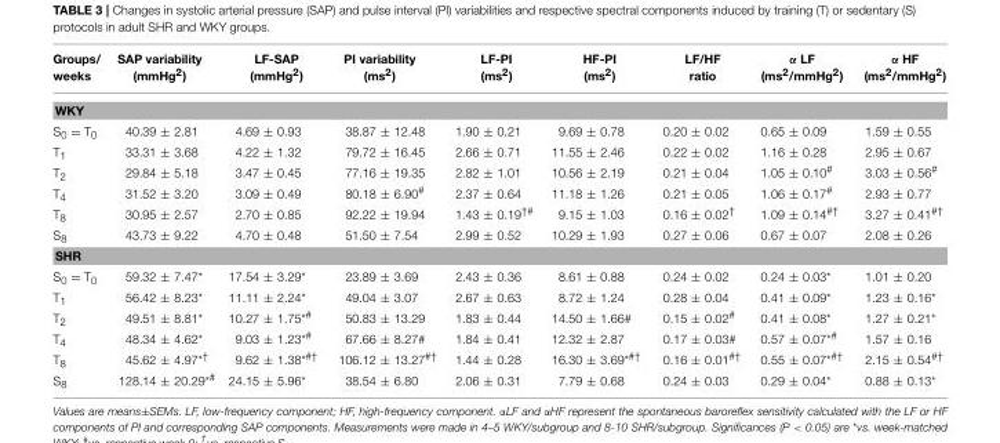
<table><thead><tr><td>Groups/ weeks</td><td>SAP variability (mmHg<sup>2</sup>)</td><td>LF-SAP (mmHg<sup>2</sup>)</td><td>PI variability (ms<sup>2</sup>)</td><td>LF-PI (ms<sup>2</sup>)</td><td>HF-PI (ms<sup>2</sup>)</td><td>LF/HF ratio</td><td>α LF (ms<sup>2</sup>/mmHg<sup>2</sup>)</td><td>α HF (ms<sup>2</sup>/mmHg<sup>2</sup>)</td></tr></thead><tbody><tr><td colspan="9">WKY</td></tr><tr><td>S<sub>0</sub> = T<sub>0</sub></td><td>40.39 ± 2.81</td><td>4.69 ± 0.93</td><td>38.87 ± 12.48</td><td>1.90 ± 0.21</td><td>9.69 ± 0.78</td><td>0.20 ± 0.02</td><td>0.65 ± 0.09</td><td>1.59 ± 0.55</td></tr><tr><td>T<sub>1</sub></td><td>33.31 ± 3.68</td><td>4.22 ± 1.32</td><td>79.72 ± 16.45</td><td>2.66 ± 0.71</td><td>11.55 ± 2.46</td><td>0.22 ± 0.02</td><td>1.16 ± 0.28</td><td>2.95 ± 0.67</td></tr><tr><td>T<sub>2</sub></td><td>29.84 ± 5.18</td><td>3.47 ± 0.45</td><td>77.16 ± 19.35</td><td>2.82 ± 1.01</td><td>10.56 ± 2.19</td><td>0.21 ± 0.04</td><td>1.05 ± 0.10<sup>#</sup></td><td>3.03 ± 0.56<sup>#</sup></td></tr><tr><td>T<sub>4</sub></td><td>31.52 ± 3.20</td><td>3.09 ± 0.49</td><td>80.18 ± 6.90<sup>#</sup></td><td>2.37 ± 0.64</td><td>11.18 ± 1.26</td><td>0.21 ± 0.05</td><td>1.06 ± 0.17<sup>#</sup></td><td>2.93 ± 0.77</td></tr><tr><td>T<sub>8</sub></td><td>30.95 ± 2.57</td><td>2.70 ± 0.85</td><td>92.22 ± 19.94</td><td>1.43 ± 0.19<sup>†#</sup></td><td>9.15 ± 1.03</td><td>0.16 ± 0.02<sup>†</sup></td><td>1.09 ± 0.14<sup>#†</sup></td><td>3.27 ± 0.41<sup>#†</sup></td></tr><tr><td>S<sub>8</sub></td><td>43.73 ± 9.22</td><td>4.70 ± 0.48</td><td>51.50 ± 7.54</td><td>2.99 ± 0.52</td><td>10.29 ± 1.93</td><td>0.27 ± 0.06</td><td>0.67 ± 0.07</td><td>2.08 ± 0.26</td></tr><tr><td colspan="9">SHR</td></tr><tr><td>S<sub>0</sub> = T<sub>0</sub></td><td>59.32 ± 7.47*</td><td>17.54 ± 3.29*</td><td>23.89 ± 3.69</td><td>2.43 ± 0.36</td><td>8.61 ± 0.88</td><td>0.24 ± 0.02</td><td>0.24 ± 0.03*</td><td>1.01 ± 0.20</td></tr><tr><td>T<sub>1</sub></td><td>56.42 ± 8.23*</td><td>11.11 ± 2.24*</td><td>49.04 ± 3.07</td><td>2.67 ± 0.63</td><td>8.72 ± 1.24</td><td>0.28 ± 0.04</td><td>0.41 ± 0.09*</td><td>1.23 ± 0.16*</td></tr><tr><td>T<sub>2</sub></td><td>49.51 ± 8.81*</td><td>10.27 ± 1.75<sup>*#</sup></td><td>50.83 ± 13.29</td><td>1.83 ± 0.44</td><td>14.50 ± 1.66<sup>#</sup></td><td>0.15 ± 0.02<sup>#</sup></td><td>0.41 ± 0.08*</td><td>1.27 ± 0.21*</td></tr><tr><td>T<sub>4</sub></td><td>48.34 ± 4.62*</td><td>9.03 ± 1.23<sup>*#</sup></td><td>67.66 ± 8.27<sup>#</sup></td><td>1.84 ± 0.41</td><td>12.32 ± 2.87</td><td>0.17 ± 0.03<sup>#</sup></td><td>0.57 ± 0.07<sup>*#</sup></td><td>1.57 ± 0.16</td></tr><tr><td>T<sub>8</sub></td><td>45.62 ± 4.97<sup>*†</sup></td><td>9.62 ± 1.38<sup>*#†</sup></td><td>106.12 ± 13.27<sup>#†</sup></td><td>1.44 ± 0.28</td><td>16.30 ± 3.69<sup>*#†</sup></td><td>0.16 ± 0.01<sup>#†</sup></td><td>0.55 ± 0.07<sup>*#†</sup></td><td>2.15 ± 0.54<sup>#†</sup></td></tr><tr><td>S<sub>8</sub></td><td>128.14 ± 20.29<sup>*#</sup></td><td>24.15 ± 5.96*</td><td>38.54 ± 6.80</td><td>2.06 ± 0.31</td><td>7.79 ± 0.68</td><td>0.24 ± 0.03</td><td>0.29 ± 0.04*</td><td>0.88 ± 0.13*</td></tr></tbody></table>